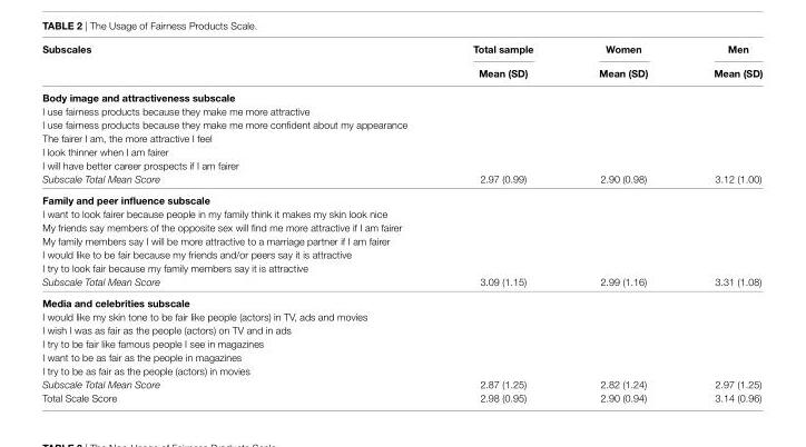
<table><thead><tr><td rowspan="2">subscales</td><td rowspan="2">Total sample Mean (sD)</td><td rowspan="2">Women Mean (sD)</td><td rowspan="2">Men Mean (sD)</td></tr><tr></tr></thead><tbody><tr><td colspan="4">Body image and attractiveness subscale</td></tr><tr><td colspan="4">I use fairness products because they make me more attractive</td></tr><tr><td colspan="4">I use fairness products because they make me more confident about my appearance</td></tr><tr><td colspan="4">The fairer I am, the more attractive I feel</td></tr><tr><td colspan="4">I look thinner when I am fairer</td></tr><tr><td colspan="4">I will have better career prospects if I am fairer</td></tr><tr><td>Subscale Total Mean Score</td><td>2.97 (0.99)</td><td>2.90 (0.98)</td><td>3.12 (1.00)</td></tr><tr><td colspan="4">Family and peer influence subscale</td></tr><tr><td colspan="4">I want to look fairer because people in my family think it makes my skin look nice</td></tr><tr><td colspan="4">My friends say members of the opposite sex will find me more attractive if I am fairer</td></tr><tr><td colspan="4">My family members say I will be more attractive to a marriage partner if I am fairer</td></tr><tr><td colspan="4">I would like to be fair because my friends and/or peers say it is attractive</td></tr><tr><td colspan="4">I try to look fair because my family members say it is attractive</td></tr><tr><td>Subscale Total Mean Score</td><td>3.09 (1.15)</td><td>2.99 (1.16)</td><td>3.31 (1.08)</td></tr><tr><td colspan="4">Media and celebrities subscale</td></tr><tr><td colspan="4">I would like my skin tone to be fair like people (actors) in TV, ads and movies</td></tr><tr><td colspan="4">I wish I was as fair as the people (actors) on TV and in ads</td></tr><tr><td colspan="4">I try to be fair like famous people I see in magazines</td></tr><tr><td colspan="4">I want to be as fair as the people in magazines</td></tr><tr><td colspan="4">I try to be as fair as the people (actors) in movies</td></tr><tr><td>Subscale Total Mean Score</td><td>2.87 (1.25)</td><td>2.82 (1.24)</td><td>2.97 (1.25)</td></tr><tr><td>Total Scale Score</td><td>2.98 (0.95)</td><td>2.90 (0.94)</td><td>3.14 (0.96)</td></tr></tbody></table>